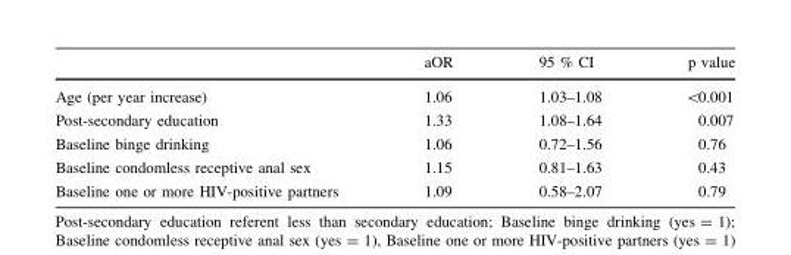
<table><thead><tr><td></td><td>aOR</td><td>95 % CI</td><td>p value</td></tr></thead><tbody><tr><td>Age (per year increase)</td><td>1.06</td><td>1.03–1.08</td><td>&lt;0.001</td></tr><tr><td>Post-secondary education</td><td>1.33</td><td>1.08–1.64</td><td>0.007</td></tr><tr><td>Baseline binge drinking</td><td>1.06</td><td>0.72–1.56</td><td>0.76</td></tr><tr><td>Baseline condomless receptive anal sex</td><td>1.15</td><td>0.81–1.63</td><td>0.43</td></tr><tr><td>Baseline one or more HIV-positive partners</td><td>1.09</td><td>0.58–2.07</td><td>0.79</td></tr></tbody></table>